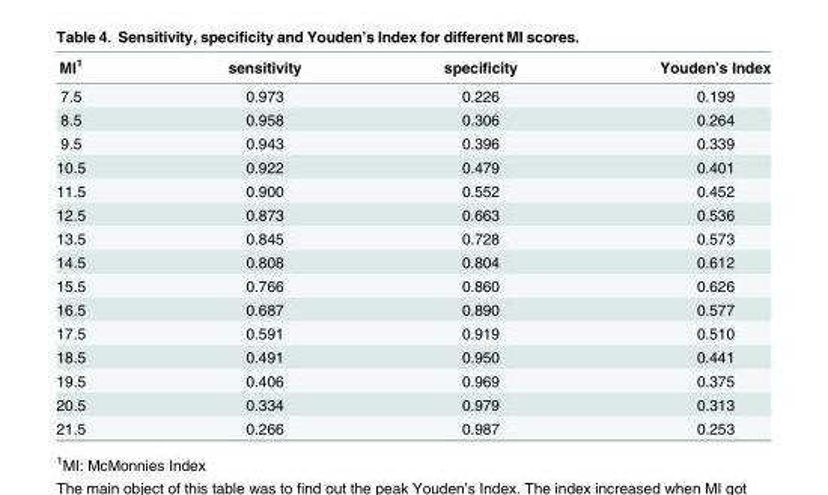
<table><thead><tr><td>MI<sup>1</sup></td><td>sensitivity</td><td>specificity</td><td>Youden’s Index</td></tr></thead><tbody><tr><td>7.5</td><td>0.973</td><td>0.226</td><td>0.199</td></tr><tr><td>8.5</td><td>0.958</td><td>0.306</td><td>0.264</td></tr><tr><td>9.5</td><td>0.943</td><td>0.396</td><td>0.339</td></tr><tr><td>10.5</td><td>0.922</td><td>0.479</td><td>0.401</td></tr><tr><td>11.5</td><td>0.900</td><td>0.552</td><td>0.452</td></tr><tr><td>12.5</td><td>0.873</td><td>0.663</td><td>0.536</td></tr><tr><td>13.5</td><td>0.845</td><td>0.728</td><td>0.573</td></tr><tr><td>14.5</td><td>0.808</td><td>0.804</td><td>0.612</td></tr><tr><td>15.5</td><td>0.766</td><td>0.860</td><td>0.626</td></tr><tr><td>16.5</td><td>0.687</td><td>0.890</td><td>0.577</td></tr><tr><td>17.5</td><td>0.591</td><td>0.919</td><td>0.510</td></tr><tr><td>18.5</td><td>0.491</td><td>0.950</td><td>0.441</td></tr><tr><td>19.5</td><td>0.406</td><td>0.969</td><td>0.375</td></tr><tr><td>20.5</td><td>0.334</td><td>0.979</td><td>0.313</td></tr><tr><td>21.5</td><td>0.266</td><td>0.987</td><td>0.253</td></tr></tbody></table>